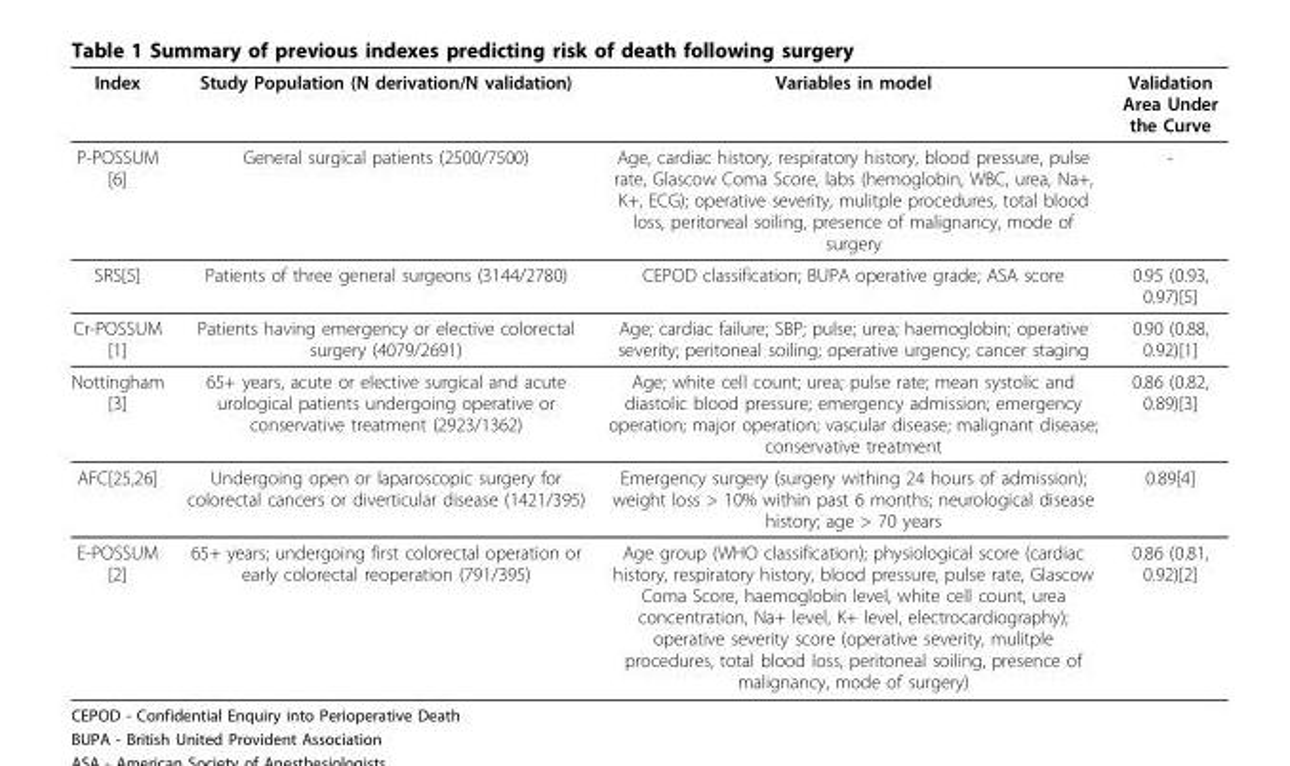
<table><thead><tr><td>Index</td><td>Study Population (N derivation/N validation)</td><td>Variables in model</td><td>Validation Area Under the Curve</td></tr></thead><tbody><tr><td>P-POSSUM [6]</td><td>General surgical patients (2500/7500)</td><td>Age, cardiac history, respiratory history, blood pressure, pulse rate, Glascow Coma Score, labs (hemoglobin, WBC, urea, Na+, K+, ECG); operative severity, mulitple procedures, total blood loss, peritoneal soiling, presence of malignancy, mode of surgery</td><td>-</td></tr><tr><td>SRS[5]</td><td>Patients of three general surgeons (3144/2780)</td><td>CEPOD classification; BUPA operative grade; ASA score</td><td>0.95 (0.93, 0.97)[5]</td></tr><tr><td>Cr-POSSUM [1]</td><td>Patients having emergency or elective colorectal surgery (4079/2691)</td><td>Age; cardiac failure; SBP; pulse; urea; haemoglobin; operative severity; peritoneal soiling; operative urgency; cancer staging</td><td>0.90 (0.88, 0.92)[1]</td></tr><tr><td>Nottingham [3]</td><td>65+ years, acute or elective surgical and acute urological patients undergoing operative or conservative treatment (2923/1362)</td><td>Age; white cell count; urea; pulse rate; mean systolic and diastolic blood pressure; emergency admission; emergency operation; major operation; vascular disease; malignant disease; conservative treatment</td><td>0.86 (0.82, 0.89)[3]</td></tr><tr><td>AFC[25,26]</td><td>Undergoing open or laparoscopic surgery for colorectal cancers or diverticular disease (1421/395)</td><td>Emergency surgery (surgery withing 24 hours of admission); weight loss &gt; 10% within past 6 months; neurological disease history; age &gt; 70 years</td><td>0.89[4]</td></tr><tr><td>E-POSSUM [2]</td><td>65+ years; undergoing first colorectal operation or early colorectal reoperation (791/395)</td><td>Age group (WHO classification); physiological score (cardiac history, respiratory history, blood pressure, pulse rate, Glascow Coma Score, haemoglobin level, white cell count, urea concentration, Na+ level, K+ level, electrocardiography); operative severity score (operative severity, mulitple procedures, total blood loss, peritoneal soiling, presence of malignancy, mode of surgery)</td><td>0.86 (0.81, 0.92)[2]</td></tr></tbody></table>